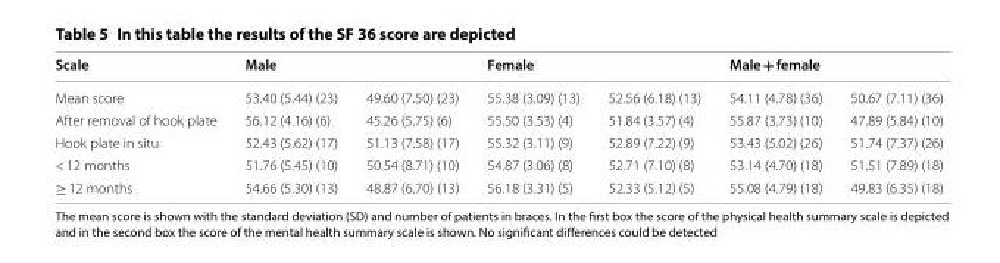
<table><thead><tr><td rowspan="2">Scale Mean score</td><td colspan="2">Male</td><td colspan="2">Female</td><td colspan="2">Male + female</td></tr><tr><td>53.40 (5.44) (23)</td><td>49.60 (7.50) (23)</td><td>55.38 (3.09) (13)</td><td>52.56 (6.18) (13)</td><td>54.11 (4.78) (36)</td><td>50.67 (7.11) (36)</td></tr></thead><tbody><tr><td>After removal of hook plate</td><td>56.12 (4.16) (6)</td><td>45.26 (5.75) (6)</td><td>55.50 (3.53) (4)</td><td>51.84 (3.57) (4)</td><td>55.87 (3.73) (10)</td><td>47.89 (5.84) (10)</td></tr><tr><td>Hook plate in situ</td><td>52.43 (5.62) (17)</td><td>51.13 (7.58) (17)</td><td>55.32 (3.11) (9)</td><td>52.89 (7.22) (9)</td><td>53.43 (5.02) (26)</td><td>51.74 (7.37) (26)</td></tr><tr><td>&lt; 12 months</td><td>51.76 (5.45) (10)</td><td>50.54 (8.71) (10)</td><td>54.87 (3.06) (8)</td><td>52.71 (7.10) (8)</td><td>53.14 (4.70) (18)</td><td>51.51 (7.89) (18)</td></tr><tr><td>≥ 12 months</td><td>54.66 (5.30) (13)</td><td>48.87 (6.70) (13)</td><td>56.18 (3.31) (5)</td><td>52.33 (5.12) (5)</td><td>55.08 (4.79) (18)</td><td>49.83 (6.35) (18)</td></tr></tbody></table>